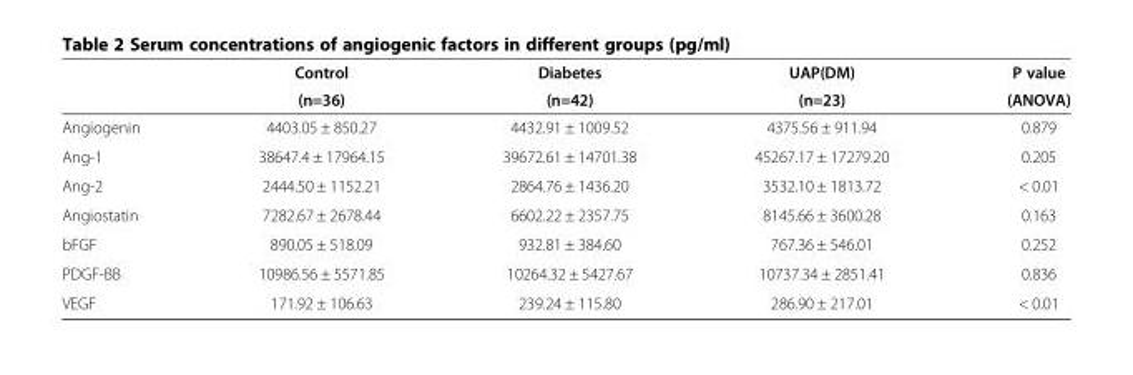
<table><thead><tr><td rowspan="2"></td><td rowspan="2">Control (n=36)</td><td rowspan="2">Diabetes (n=42)</td><td rowspan="2">UAP(DM) (n=23)</td><td rowspan="2">P value (ANOVA)</td></tr><tr></tr></thead><tbody><tr><td>Angiogenin</td><td>4403.05 ± 850.27</td><td>4432.91 ± 1009.52</td><td>4375.56 ± 911.94</td><td>0.879</td></tr><tr><td>Ang-1</td><td>38647.4 ± 17964.15</td><td>39672.61 ± 14701.38</td><td>45267.17 ± 17279.20</td><td>0.205</td></tr><tr><td>Ang-2</td><td>2444.50 ± 1152.21</td><td>2864.76 ± 1436.20</td><td>3532.10 ± 1813.72</td><td>&lt; 0.01</td></tr><tr><td>Angiostatin</td><td>7282.67 ± 2678.44</td><td>6602.22 ± 2357.75</td><td>8145.66 ± 3600.28</td><td>0.163</td></tr><tr><td>bFGF</td><td>890.05 ± 518.09</td><td>932.81 ± 384.60</td><td>767.36 ± 546.01</td><td>0.252</td></tr><tr><td>PDGF-BB</td><td>10986.56 ± 5571.85</td><td>10264.32 ± 5427.67</td><td>10737.34 ± 2851.41</td><td>0.836</td></tr><tr><td>VEGF</td><td>171.92 ± 106.63</td><td>239.24 ± 115.80</td><td>286.90 ± 217.01</td><td>&lt; 0.01</td></tr></tbody></table>